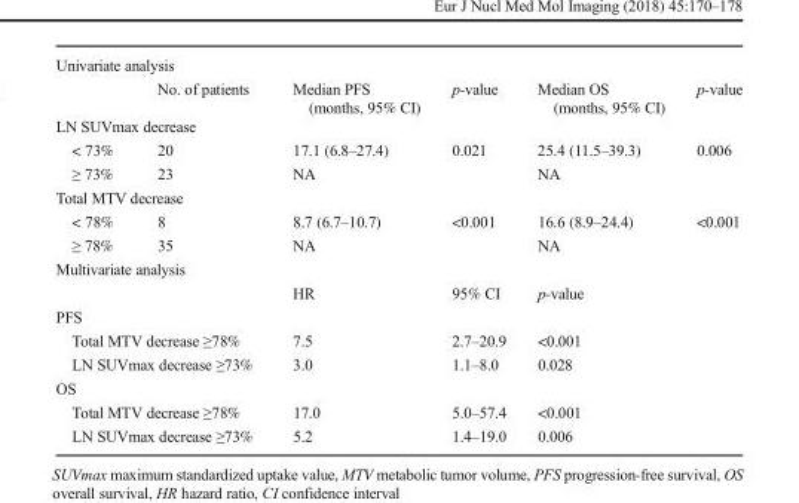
<table><tbody><tr><td colspan="6">Univariate analysis</td></tr><tr><td></td><td>No. of patients</td><td>Median PFS (months, 95% CI)</td><td>p-value</td><td>Median OS (months, 95% CI)</td><td>p-value</td></tr><tr><td colspan="6">LN SUVmax decrease</td></tr><tr><td>&lt; 73%</td><td>20</td><td>17.1 (6.8–27.4)</td><td>0.021</td><td>25.4 (11.5–39.3)</td><td>0.006</td></tr><tr><td>≥ 73%</td><td>23</td><td>NA</td><td></td><td>NA</td><td></td></tr><tr><td colspan="6">Total MTV decrease</td></tr><tr><td>&lt; 78%</td><td>8</td><td>8.7 (6.7–10.7)</td><td>&lt;0.001</td><td>16.6 (8.9–24.4)</td><td>&lt;0.001</td></tr><tr><td>≥ 78%</td><td>35</td><td>NA</td><td></td><td>NA</td><td></td></tr><tr><td colspan="6">Multivariate analysis</td></tr><tr><td colspan="2"></td><td>HR</td><td>95% CI</td><td colspan="2">p-value</td></tr><tr><td colspan="6">PFS</td></tr><tr><td colspan="2">Total MTV decrease ≥78%</td><td>7.5</td><td>2.7–20.9</td><td colspan="2">&lt;0.001</td></tr><tr><td colspan="2">LN SUVmax decrease ≥73%</td><td>3.0</td><td>1.1–8.0</td><td colspan="2">0.028</td></tr><tr><td colspan="6">OS</td></tr><tr><td colspan="2">Total MTV decrease ≥78%</td><td>17.0</td><td>5.0–57.4</td><td colspan="2">&lt;0.001</td></tr><tr><td colspan="2">LN SUVmax decrease ≥73%</td><td>5.2</td><td>1.4–19.0</td><td colspan="2">0.006</td></tr></tbody></table>